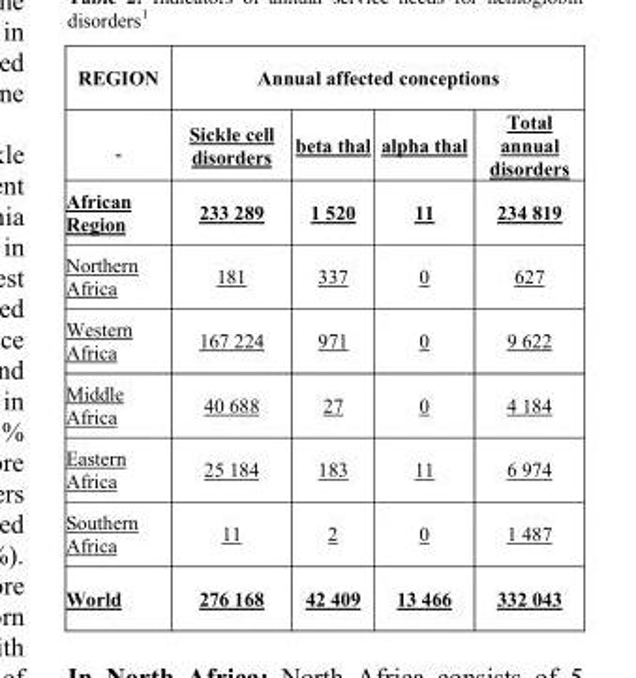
<table><thead><tr><td rowspan="2">REGION</td><td colspan="4">Annual affected conceptions</td></tr><tr><td>Sickle cell disorders</td><td>beta thal</td><td>alpha thal</td><td>Total annual disorders</td></tr></thead><tbody><tr><td>African Region</td><td>233 289</td><td>1 520</td><td>11</td><td>234 819</td></tr><tr><td>Northern Africa</td><td>181</td><td>337</td><td>0</td><td>627</td></tr><tr><td>Western Africa</td><td>167 224</td><td>971</td><td>0</td><td>9 622</td></tr><tr><td>Middle Africa</td><td>40 688</td><td>27</td><td>0</td><td>4 184</td></tr><tr><td>Eastern Africa</td><td>25 184</td><td>183</td><td>11</td><td>6 974</td></tr><tr><td>Southern Africa</td><td>11</td><td>2</td><td>0</td><td>1 487</td></tr><tr><td>World</td><td>276 168</td><td>42 409</td><td>13 466</td><td>332 043</td></tr></tbody></table>